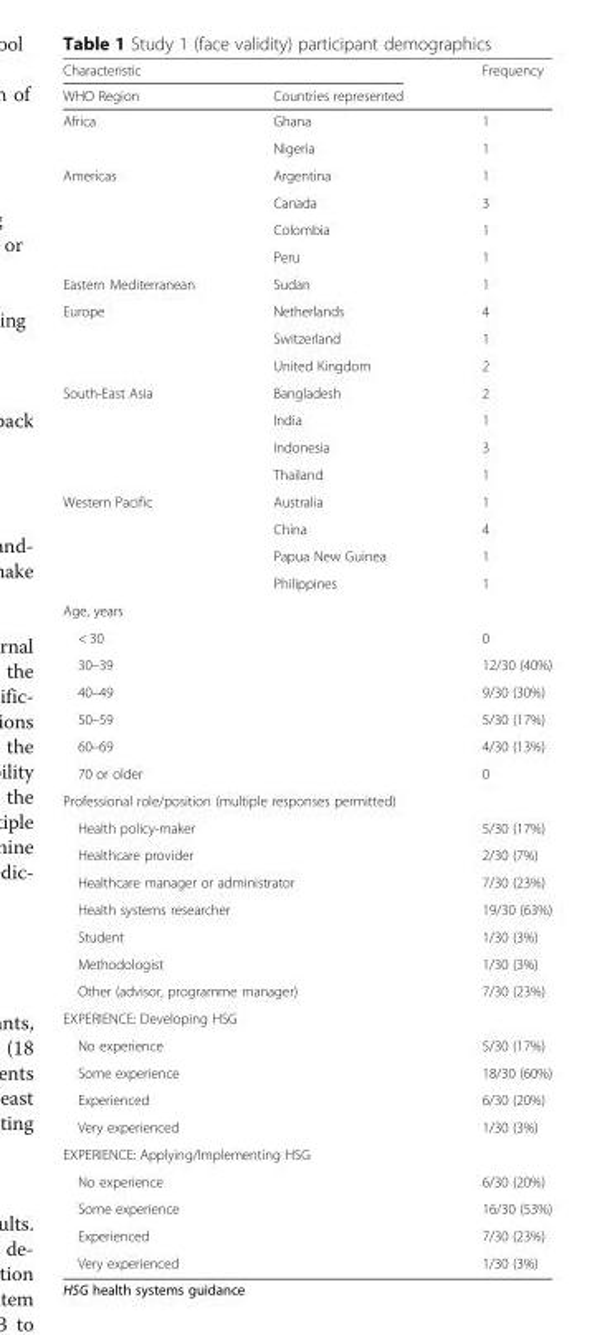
<table><thead><tr><td colspan="2">Characteristic</td><td rowspan="2">Frequency</td></tr><tr><td>WHO Region</td><td>Countries represented</td></tr></thead><tbody><tr><td rowspan="2">Africa</td><td>Ghana</td><td>1</td></tr><tr><td>Nigeria</td><td>1</td></tr><tr><td rowspan="4">Americas</td><td>Argentina</td><td>1</td></tr><tr><td>Canada</td><td>3</td></tr><tr><td>Colombia</td><td>1</td></tr><tr><td>Peru</td><td>1</td></tr><tr><td>Eastern Mediterranean</td><td>Sudan</td><td>1</td></tr><tr><td rowspan="3">Europe</td><td>Netherlands</td><td>4</td></tr><tr><td>Switzerland</td><td>1</td></tr><tr><td>United Kingdom</td><td>2</td></tr><tr><td rowspan="4">South-East Asia</td><td>Bangladesh</td><td>2</td></tr><tr><td>India</td><td>1</td></tr><tr><td>Indonesia</td><td>3</td></tr><tr><td>Thailand</td><td>1</td></tr><tr><td rowspan="4">Western Pacific</td><td>Australia</td><td>1</td></tr><tr><td>China</td><td>4</td></tr><tr><td>Papua New Guinea</td><td>1</td></tr><tr><td>Philippines</td><td>1</td></tr><tr><td colspan="3">Age, years</td></tr><tr><td colspan="2">&lt; 30</td><td>0</td></tr><tr><td colspan="2">30–39</td><td>12/30 (40%)</td></tr><tr><td colspan="2">40–49</td><td>9/30 (30%)</td></tr><tr><td colspan="2">50–59</td><td>5/30 (17%)</td></tr><tr><td colspan="2">60–69</td><td>4/30 (13%)</td></tr><tr><td colspan="2">70 or older</td><td>0</td></tr><tr><td colspan="3">Professional role/position (multiple responses permitted)</td></tr><tr><td colspan="2">Health policy-maker</td><td>5/30 (17%)</td></tr><tr><td colspan="2">Healthcare provider</td><td>2/30 (7%)</td></tr><tr><td colspan="2">Healthcare manager or administrator</td><td>7/30 (23%)</td></tr><tr><td colspan="2">Health systems researcher</td><td>19/30 (63%)</td></tr><tr><td colspan="2">Student</td><td>1/30 (3%)</td></tr><tr><td colspan="2">Methodologist</td><td>1/30 (3%)</td></tr><tr><td colspan="2">Other (advisor, programme manager)</td><td>7/30 (23%)</td></tr><tr><td colspan="3">EXPERIENCE: Developing HSG</td></tr><tr><td colspan="2">No experience</td><td>5/30 (17%)</td></tr><tr><td colspan="2">Some experience</td><td>18/30 (60%)</td></tr><tr><td colspan="2">Experienced</td><td>6/30 (20%)</td></tr><tr><td colspan="2">Very experienced</td><td>1/30 (3%)</td></tr><tr><td colspan="3">EXPERIENCE: Applying/Implementing HSG</td></tr><tr><td colspan="2">No experience</td><td>6/30 (20%)</td></tr><tr><td colspan="2">Some experience</td><td>16/30 (53%)</td></tr><tr><td colspan="2">Experienced</td><td>7/30 (23%)</td></tr><tr><td colspan="2">Very experienced</td><td>1/30 (3%)</td></tr></tbody></table>